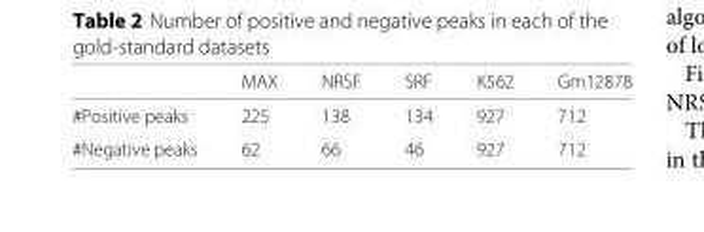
<table><thead><tr><td></td><td>MAX</td><td>NRSF</td><td>SRF</td><td>K562</td><td>Gm12878</td></tr></thead><tbody><tr><td>#Positive peaks</td><td>225</td><td>138</td><td>134</td><td>927</td><td>712</td></tr><tr><td>#Negative peaks</td><td>62</td><td>66</td><td>46</td><td>927</td><td>712</td></tr></tbody></table>